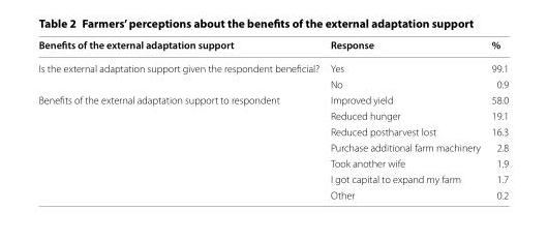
<table><thead><tr><td>Benefits of the external adaptation support</td><td>Response</td><td>%</td></tr></thead><tbody><tr><td rowspan="2">Is the external adaptation support given the respondent beneficial?</td><td>Yes</td><td>99.1</td></tr><tr><td>No</td><td>0.9</td></tr><tr><td rowspan="7">Benefits of the external adaptation support to respondent</td><td>Improved yield</td><td>58.0</td></tr><tr><td>Reduced hunger</td><td>19.1</td></tr><tr><td>Reduced postharvest lost</td><td>16.3</td></tr><tr><td>Purchase additional farm machinery</td><td>2.8</td></tr><tr><td>Took another wife</td><td>1.9</td></tr><tr><td>I got capital to expand my farm</td><td>1.7</td></tr><tr><td>Other</td><td>0.2</td></tr></tbody></table>